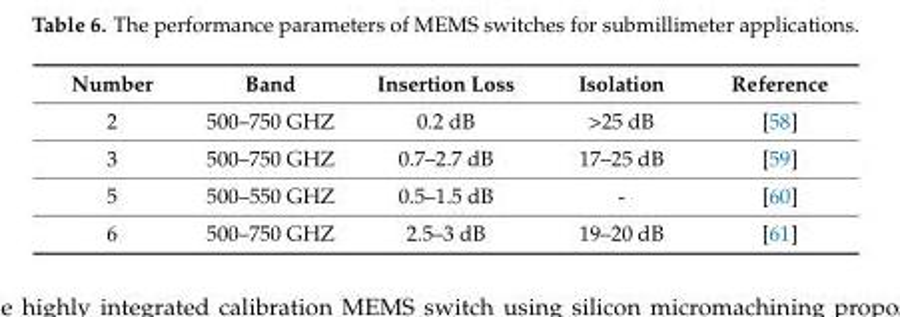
<table><thead><tr><td>Number</td><td>Band</td><td>Insertion Loss</td><td>Isolation</td><td>Reference</td></tr></thead><tbody><tr><td>2</td><td>500–750 GHZ</td><td>0.2 dB</td><td>&gt;25 dB</td><td>[58]</td></tr><tr><td>3</td><td>500–750 GHZ</td><td>0.7–2.7 dB</td><td>17–25 dB</td><td>[59]</td></tr><tr><td>5</td><td>500–550 GHZ</td><td>0.5–1.5 dB</td><td>-</td><td>[60]</td></tr><tr><td>6</td><td>500–750 GHZ</td><td>2.5–3 dB</td><td>19–20 dB</td><td>[61]</td></tr></tbody></table>